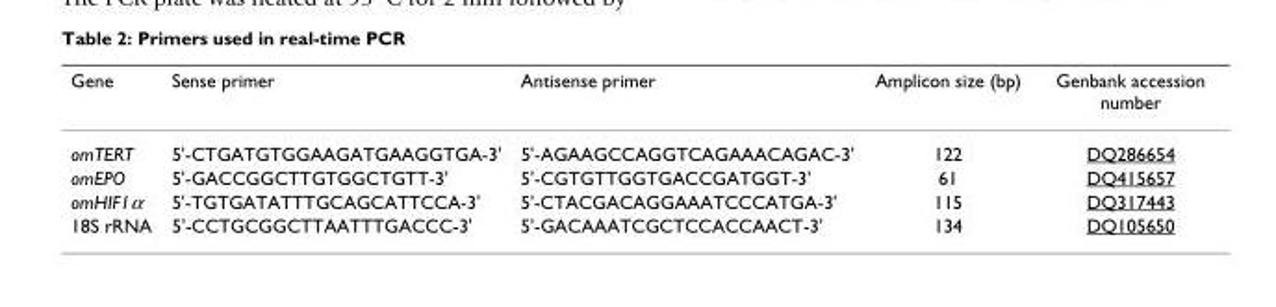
<table><thead><tr><td>Gene</td><td>Sense primer</td><td>Antisense primer</td><td>Amplicon size (bp)</td><td>Genbank accession number</td></tr></thead><tbody><tr><td>omTERT</td><td>5&#x27;-CTGATGTGGAAGATGAAGGTGA-3&#x27;</td><td>5&#x27;-AGAAGCCAGGTCAGAAACAGAC-3&#x27;</td><td>122</td><td>DQ286654</td></tr><tr><td>omEPO</td><td>5&#x27;-GACCGGCTTGTGGCTGTT-3&#x27;</td><td>5&#x27;-CGTGTTGGTGACCGATGGT-3&#x27;</td><td>61</td><td>DQ415657</td></tr><tr><td>omHIF1α</td><td>5&#x27;-TGTGATATTTGCAGCATTCCA-3&#x27;</td><td>5&#x27;-CTACGACAGGAAATCCCATGA-3&#x27;</td><td>115</td><td>DQ317443</td></tr><tr><td>18S rRNA</td><td>5&#x27;-CCTGCGGCTTAATTTGACCC-3&#x27;</td><td>5&#x27;-GACAAATCGCTCCACCAACT-3&#x27;</td><td>134</td><td>DQ105650</td></tr></tbody></table>